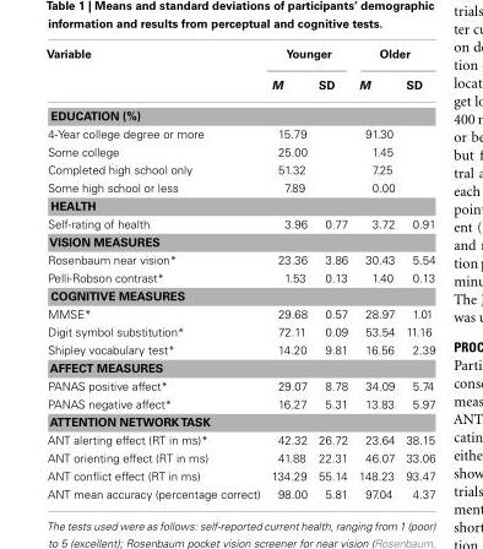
<table><thead><tr><td rowspan="2">Variable</td><td colspan="2">Younger</td><td colspan="2">Older</td></tr><tr><td>M</td><td>SD</td><td>M</td><td>SD</td></tr></thead><tbody><tr><td colspan="5">EDUCATION (%)</td></tr><tr><td>4-Year college degree or more</td><td>15.79</td><td></td><td>91.30</td><td></td></tr><tr><td>Some college</td><td>25.00</td><td></td><td>1.45</td><td></td></tr><tr><td>Completed high school only</td><td>51.32</td><td></td><td>7.25</td><td></td></tr><tr><td>Some high school or less</td><td>7.89</td><td></td><td>0.00</td><td></td></tr><tr><td colspan="5">HEALTH</td></tr><tr><td>Self-rating of health</td><td>3.96</td><td>0.77</td><td>3.72</td><td>0.91</td></tr><tr><td colspan="5">VISION MEASURES</td></tr><tr><td>Rosenbaum near vision*</td><td>23.36</td><td>3.86</td><td>30.43</td><td>5.54</td></tr><tr><td>Pelli-Robson contrast*</td><td>1.53</td><td>0.13</td><td>1.40</td><td>0.13</td></tr><tr><td colspan="5">COGNITIVE MEASURES</td></tr><tr><td>MMSE*</td><td>29.68</td><td>0.57</td><td>28.97</td><td>1.01</td></tr><tr><td>Digit symbol substitution*</td><td>72.11</td><td>0.09</td><td>53.54</td><td>11.16</td></tr><tr><td>Shipley vocabulary test*</td><td>14.20</td><td>9.81</td><td>16.56</td><td>2.39</td></tr><tr><td colspan="5">AFFECT MEASURES</td></tr><tr><td>PANAS positive affect*</td><td>29.07</td><td>8.78</td><td>34.09</td><td>5.74</td></tr><tr><td>PANAS negative affect*</td><td>16.27</td><td>5.31</td><td>13.83</td><td>5.97</td></tr><tr><td colspan="5">ATTENTION NETWORKTASK</td></tr><tr><td>ANT alerting effect (RT in ms)*</td><td>42.32</td><td>26.72</td><td>23.64</td><td>38.15</td></tr><tr><td>ANT orienting effect (RT in ms)</td><td>41.88</td><td>22.31</td><td>46.07</td><td>33.06</td></tr><tr><td>ANT conflict effect (RT in ms)</td><td>134.29</td><td>55.14</td><td>148.23</td><td>93.47</td></tr><tr><td>ANT mean accuracy (percentage correct)</td><td>98.00</td><td>5.81</td><td>97.04</td><td>4.37</td></tr></tbody></table>